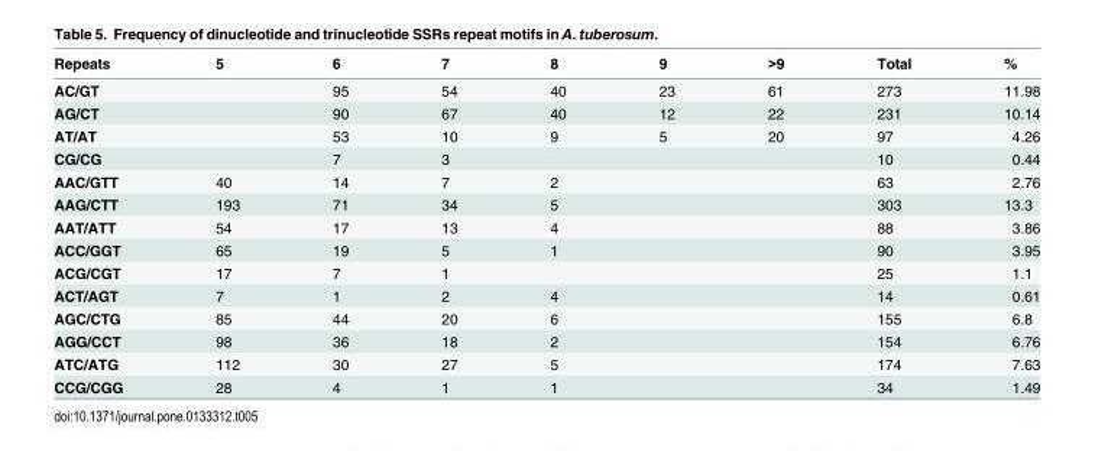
<table><thead><tr><td>Repeats</td><td>5</td><td>6</td><td>7</td><td>8</td><td>9</td><td>&gt;9</td><td>Total</td><td>%</td></tr></thead><tbody><tr><td>AC/GT</td><td></td><td>95</td><td>54</td><td>40</td><td>23</td><td>61</td><td>273</td><td>11.98</td></tr><tr><td>AG/CT</td><td></td><td>90</td><td>67</td><td>40</td><td>12</td><td>22</td><td>231</td><td>10.14</td></tr><tr><td>AT/AT</td><td></td><td>53</td><td>10</td><td>9</td><td>5</td><td>20</td><td>97</td><td>4.26</td></tr><tr><td>CG/CG</td><td></td><td>7</td><td>3</td><td></td><td></td><td></td><td>10</td><td>0.44</td></tr><tr><td>AAC/GTT</td><td>40</td><td>14</td><td>7</td><td>2</td><td></td><td></td><td>63</td><td>2.76</td></tr><tr><td>AAG/CTT</td><td>193</td><td>71</td><td>34</td><td>5</td><td></td><td></td><td>303</td><td>13.3</td></tr><tr><td>AAT/ATT</td><td>54</td><td>17</td><td>13</td><td>4</td><td></td><td></td><td>88</td><td>3.86</td></tr><tr><td>ACC/GGT</td><td>65</td><td>19</td><td>5</td><td>1</td><td></td><td></td><td>90</td><td>3.95</td></tr><tr><td>ACG/CGT</td><td>17</td><td>7</td><td>1</td><td></td><td></td><td></td><td>25</td><td>1.1</td></tr><tr><td>ACT/AGT</td><td>7</td><td>1</td><td>2</td><td>4</td><td></td><td></td><td>14</td><td>0.61</td></tr><tr><td>AGC/CTG</td><td>85</td><td>44</td><td>20</td><td>6</td><td></td><td></td><td>155</td><td>6.8</td></tr><tr><td>AGG/CCT</td><td>98</td><td>36</td><td>18</td><td>2</td><td></td><td></td><td>154</td><td>6.76</td></tr><tr><td>ATC/ATG</td><td>112</td><td>30</td><td>27</td><td>5</td><td></td><td></td><td>174</td><td>7.63</td></tr><tr><td>CCG/CGG</td><td>28</td><td>4</td><td>1</td><td>1</td><td></td><td></td><td>34</td><td>1.49</td></tr></tbody></table>